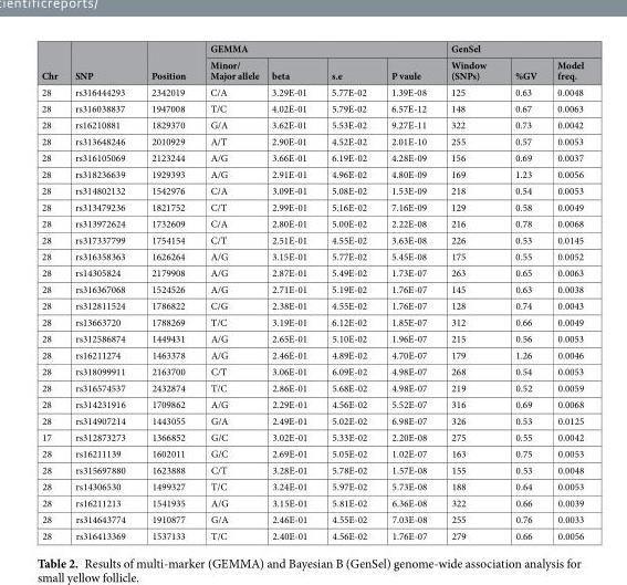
<table><thead><tr><td rowspan="2">Chr</td><td rowspan="2">SNP</td><td rowspan="2">Position</td><td colspan="4">GEMMA</td><td colspan="3">GenSel</td></tr><tr><td>Minor/ Major allele</td><td>beta</td><td>s.e</td><td>P vaule</td><td>Window (SNPs)</td><td>%GV</td><td>Model freq.</td></tr></thead><tbody><tr><td>28</td><td>rs316444293</td><td>2342019</td><td>C/A</td><td>3.29E-01</td><td>5.77E-02</td><td>1.39E-08</td><td>125</td><td>0.63</td><td>0.0048</td></tr><tr><td>28</td><td>rs316038837</td><td>1947008</td><td>T/C</td><td>4.02E-01</td><td>5.79E-02</td><td>6.57E-12</td><td>148</td><td>0.67</td><td>0.0063</td></tr><tr><td>28</td><td>rs16210881</td><td>1829370</td><td>G/A</td><td>3.62E-01</td><td>5.53E-02</td><td>9.27E-11</td><td>322</td><td>0.73</td><td>0.0042</td></tr><tr><td>28</td><td>rs313648246</td><td>2010929</td><td>A/T</td><td>2.90E-01</td><td>4.52E-02</td><td>2.01E-10</td><td>255</td><td>0.57</td><td>0.0053</td></tr><tr><td>28</td><td>rs316105069</td><td>2123244</td><td>A/G</td><td>3.66E-01</td><td>6.19E-02</td><td>4.28E-09</td><td>156</td><td>0.69</td><td>0.0037</td></tr><tr><td>28</td><td>rs318236639</td><td>1929393</td><td>A/G</td><td>2.91E-01</td><td>4.96E-02</td><td>4.80E-09</td><td>169</td><td>1.23</td><td>0.0056</td></tr><tr><td>28</td><td>rs314802132</td><td>1542976</td><td>C/A</td><td>3.09E-01</td><td>5.08E-02</td><td>1.53E-09</td><td>218</td><td>0.54</td><td>0.0053</td></tr><tr><td>28</td><td>rs313479236</td><td>1821752</td><td>C/T</td><td>2.99E-01</td><td>5.16E-02</td><td>7.16E-09</td><td>129</td><td>0.58</td><td>0.0049</td></tr><tr><td>28</td><td>rs313972624</td><td>1732609</td><td>C/A</td><td>2.80E-01</td><td>5.00E-02</td><td>2.22E-08</td><td>216</td><td>0.78</td><td>0.0068</td></tr><tr><td>28</td><td>rs317337799</td><td>1754154</td><td>C/T</td><td>2.51E-01</td><td>4.55E-02</td><td>3.63E-08</td><td>226</td><td>0.53</td><td>0.0145</td></tr><tr><td>28</td><td>rs316358363</td><td>1626264</td><td>A/G</td><td>3.15E-01</td><td>5.77E-02</td><td>5.45E-08</td><td>175</td><td>0.55</td><td>0.0052</td></tr><tr><td>28</td><td>rs14305824</td><td>2179908</td><td>A/G</td><td>2.87E-01</td><td>5.49E-02</td><td>1.73E-07</td><td>263</td><td>0.65</td><td>0.0063</td></tr><tr><td>28</td><td>rs316367068</td><td>1524526</td><td>A/G</td><td>2.71E-01</td><td>5.19E-02</td><td>1.76E-07</td><td>145</td><td>0.63</td><td>0.0038</td></tr><tr><td>28</td><td>rs312811524</td><td>1786822</td><td>C/G</td><td>2.38E-01</td><td>4.55E-02</td><td>1.76E-07</td><td>128</td><td>0.74</td><td>0.0043</td></tr><tr><td>28</td><td>rs13663720</td><td>1788269</td><td>T/C</td><td>3.19E-01</td><td>6.12E-02</td><td>1.85E-07</td><td>312</td><td>0.66</td><td>0.0049</td></tr><tr><td>28</td><td>rs312586874</td><td>1449431</td><td>A/G</td><td>2.65E-01</td><td>5.10E-02</td><td>1.96E-07</td><td>215</td><td>0.56</td><td>0.0053</td></tr><tr><td>28</td><td>rs16211274</td><td>1463378</td><td>A/G</td><td>2.46E-01</td><td>4.89E-02</td><td>4.70E-07</td><td>179</td><td>1.26</td><td>0.0046</td></tr><tr><td>28</td><td>rs318099911</td><td>2163700</td><td>C/T</td><td>3.06E-01</td><td>6.09E-02</td><td>4.98E-07</td><td>268</td><td>0.54</td><td>0.0053</td></tr><tr><td>28</td><td>rs316574537</td><td>2432874</td><td>T/C</td><td>2.86E-01</td><td>5.68E-02</td><td>4.98E-07</td><td>219</td><td>0.52</td><td>0.0059</td></tr><tr><td>28</td><td>rs314231916</td><td>1709862</td><td>A/G</td><td>2.29E-01</td><td>4.56E-02</td><td>5.52E-07</td><td>316</td><td>0.69</td><td>0.0068</td></tr><tr><td>28</td><td>rs314907214</td><td>1443055</td><td>G/A</td><td>2.49E-01</td><td>5.02E-02</td><td>6.98E-07</td><td>326</td><td>0.53</td><td>0.0125</td></tr><tr><td>17</td><td>rs312873273</td><td>1366852</td><td>G/C</td><td>3.02E-01</td><td>5.33E-02</td><td>2.20E-08</td><td>275</td><td>0.55</td><td>0.0042</td></tr><tr><td>28</td><td>rs16211139</td><td>1602011</td><td>G/C</td><td>2.69E-01</td><td>5.05E-02</td><td>1.02E-07</td><td>163</td><td>0.75</td><td>0.0053</td></tr><tr><td>28</td><td>rs315697880</td><td>1623888</td><td>C/T</td><td>3.28E-01</td><td>5.78E-02</td><td>1.57E-08</td><td>155</td><td>0.53</td><td>0.0048</td></tr><tr><td>28</td><td>rs14306530</td><td>1499327</td><td>T/C</td><td>3.24E-01</td><td>5.97E-02</td><td>5.73E-08</td><td>188</td><td>0.64</td><td>0.0053</td></tr><tr><td>28</td><td>rs16211213</td><td>1541935</td><td>A/G</td><td>3.15E-01</td><td>5.81E-02</td><td>6.36E-08</td><td>322</td><td>0.66</td><td>0.0039</td></tr><tr><td>28</td><td>rs314643774</td><td>1910877</td><td>G/A</td><td>2.46E-01</td><td>4.55E-02</td><td>7.03E-08</td><td>255</td><td>0.76</td><td>0.0033</td></tr><tr><td>28</td><td>rs316413369</td><td>1537133</td><td>T/C</td><td>2.40E-01</td><td>4.56E-02</td><td>1.76E-07</td><td>279</td><td>0.66</td><td>0.0056</td></tr></tbody></table>